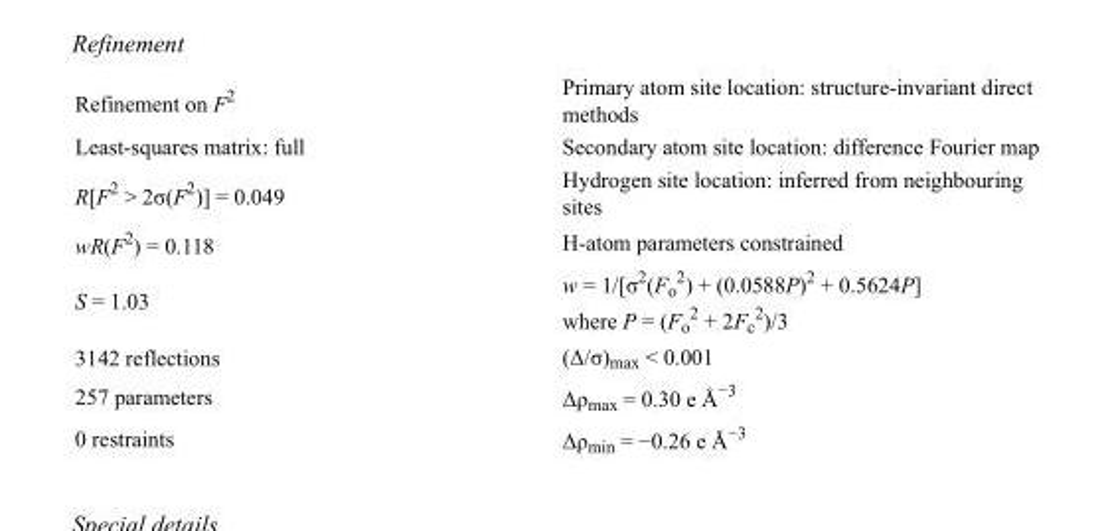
<table><tbody><tr><td>Refinement on F<sup>2</sup></td><td>Primary atom site location: structure-invariant direct methods</td></tr><tr><td>Least-squares matrix: full</td><td>Secondary atom site location: difference Fourier map</td></tr><tr><td>R[F<sup>2</sup> &gt; 2σ(F<sup>2</sup>)] = 0.049</td><td>Hydrogen site location: inferred from neighbouring sites</td></tr><tr><td>wR(F<sup>2</sup>) = 0.118</td><td>H-atom parameters constrained</td></tr><tr><td>S = 1.03</td><td>w = 1/[σ<sup>2</sup>(F<sub>o</sub> <sup>2</sup>) + (0.0588P)<sup>2</sup> + 0.5624P] where P = (F<sub>o</sub> <sup>2</sup> + 2F<sub>c</sub> <sup>2</sup>)/3</td></tr><tr><td>3142 reflections</td><td>(Δ/σ)<sub>max</sub> &lt; 0.001</td></tr><tr><td>257 parameters</td><td>Δρ<sub>max</sub> = 0.30 e Å<sup>−3</sup></td></tr><tr><td>0 restraints</td><td>Δρ<sub>min</sub> = −0.26 e Å<sup>−3</sup></td></tr></tbody></table>